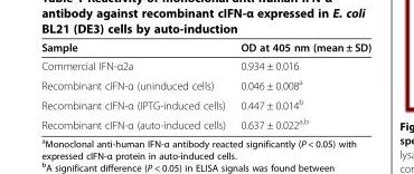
<table><thead><tr><td>Sample</td><td>OD at 405 nm (mean ± SD)</td></tr></thead><tbody><tr><td>Commercial IFN-α2a</td><td>0.934 ± 0.016</td></tr><tr><td>Recombinant cIFN-α (uninduced cells)</td><td>0.046 ± 0.008<sup>a</sup></td></tr><tr><td>Recombinant cIFN-α (IPTG-induced cells)</td><td>0.447 ± 0.014<sup>b</sup></td></tr><tr><td>Recombinant cIFN-α (auto-induced cells)</td><td>0.637 ± 0.022<sup>a,b</sup></td></tr></tbody></table>